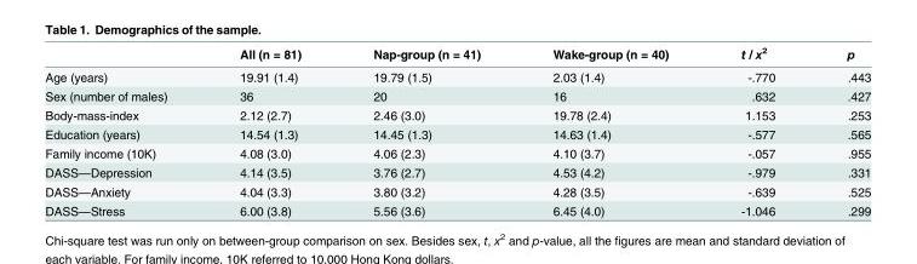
<table><thead><tr><td></td><td>All (n = 81)</td><td>Nap-group (n = 41)</td><td>Wake-group (n = 40)</td><td>t / x<sup>2</sup></td><td>p</td></tr></thead><tbody><tr><td>Age (years)</td><td>19.91 (1.4)</td><td>19.79 (1.5)</td><td>2.03 (1.4)</td><td>-.770</td><td>.443</td></tr><tr><td>Sex (number of males)</td><td>36</td><td>20</td><td>16</td><td>.632</td><td>.427</td></tr><tr><td>Body-mass-index</td><td>2.12 (2.7)</td><td>2.46 (3.0)</td><td>19.78 (2.4)</td><td>1.153</td><td>.253</td></tr><tr><td>Education (years)</td><td>14.54 (1.3)</td><td>14.45 (1.3)</td><td>14.63 (1.4)</td><td>-.577</td><td>.565</td></tr><tr><td>Family income (10K)</td><td>4.08 (3.0)</td><td>4.06 (2.3)</td><td>4.10 (3.7)</td><td>-.057</td><td>.955</td></tr><tr><td>DASS—Depression</td><td>4.14 (3.5)</td><td>3.76 (2.7)</td><td>4.53 (4.2)</td><td>-.979</td><td>.331</td></tr><tr><td>DASS—Anxiety</td><td>4.04 (3.3)</td><td>3.80 (3.2)</td><td>4.28 (3.5)</td><td>-.639</td><td>.525</td></tr><tr><td>DASS—Stress</td><td>6.00 (3.8)</td><td>5.56 (3.6)</td><td>6.45 (4.0)</td><td>-1.046</td><td>.299</td></tr></tbody></table>